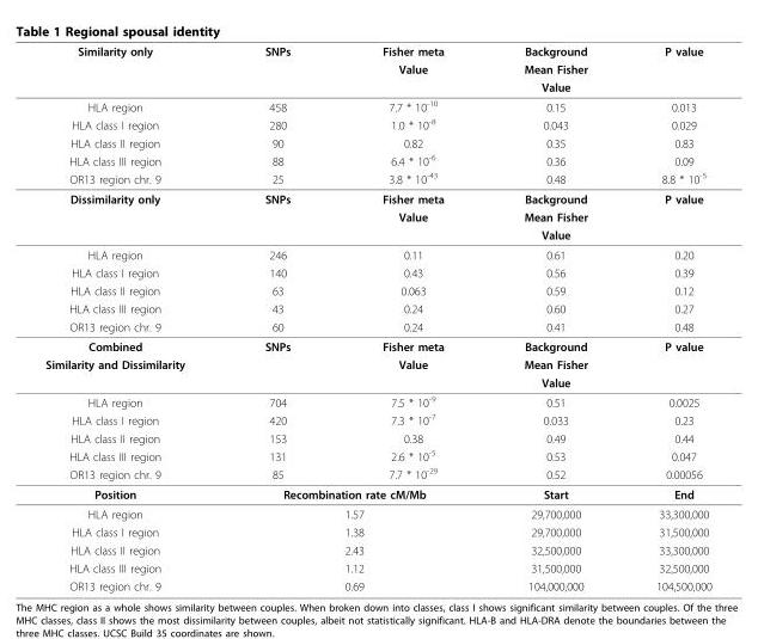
<table><thead><tr><td rowspan="3">Similarity only</td><td rowspan="3">SNPs</td><td rowspan="3">Fisher meta Value</td><td rowspan="3">Background Mean Fisher Value</td><td rowspan="3">P value</td></tr><tr></tr><tr></tr></thead><tbody><tr><td>HLA region</td><td>458</td><td>7.7 * 10<sup>-10</sup></td><td>0.15</td><td>0.013</td></tr><tr><td>HLA class I region</td><td>280</td><td>1.0 * 10<sup>-8</sup></td><td>0.043</td><td>0.029</td></tr><tr><td>HLA class II region</td><td>90</td><td>0.82</td><td>0.35</td><td>0.83</td></tr><tr><td>HLA class III region</td><td>88</td><td>6.4 * 10<sup>-6</sup></td><td>0.36</td><td>0.09</td></tr><tr><td>OR13 region chr. 9</td><td>25</td><td>3.8 * 10<sup>-43</sup></td><td>0.48</td><td>8.8 * 10<sup>-5</sup></td></tr><tr><td rowspan="3">Dissimilarity only</td><td>SNPs</td><td>Fisher meta</td><td>Background</td><td>P value</td></tr><tr><td></td><td>Value</td><td>Mean Fisher</td><td></td></tr><tr><td></td><td></td><td>Value</td><td></td></tr><tr><td>HLA region</td><td>246</td><td>0.11</td><td>0.61</td><td>0.20</td></tr><tr><td>HLA class I region</td><td>140</td><td>0.43</td><td>0.56</td><td>0.39</td></tr><tr><td>HLA class II region</td><td>63</td><td>0.063</td><td>0.59</td><td>0.12</td></tr><tr><td>HLA class III region</td><td>43</td><td>0.24</td><td>0.60</td><td>0.27</td></tr><tr><td>OR13 region chr. 9</td><td>60</td><td>0.24</td><td>0.41</td><td>0.48</td></tr><tr><td>Combined</td><td>SNPs</td><td>Fisher meta</td><td>Background</td><td>P value</td></tr><tr><td rowspan="2">Similarity and Dissimilarity</td><td></td><td>Value</td><td>Mean Fisher</td><td></td></tr><tr><td></td><td></td><td>Value</td><td></td></tr><tr><td>HLA region</td><td>704</td><td>7.5 * 10-9</td><td>0.51</td><td>0.0025</td></tr><tr><td>HLA class I region</td><td>420</td><td>7.3 * 10-7</td><td>0.033</td><td>0.23</td></tr><tr><td>HLA class II region</td><td>153</td><td>0.38</td><td>0.49</td><td>0.44</td></tr><tr><td>HLA class III region</td><td>131</td><td>2.6 * 10-5</td><td>0.53</td><td>0.047</td></tr><tr><td>OR13 region chr. 9</td><td>85</td><td>7.7 * 10-29</td><td>0.52</td><td>0.00056</td></tr><tr><td>Position</td><td colspan="2">Recombination rate cM/Mb</td><td>Start</td><td>End</td></tr><tr><td>HLA region</td><td colspan="2">1.57</td><td>29,700,000</td><td>33,300,000</td></tr><tr><td>HLA class I region</td><td colspan="2">1.38</td><td>29,700,000</td><td>31,500,000</td></tr><tr><td>HLA class II region</td><td colspan="2">2.43</td><td>32,500,000</td><td>33,300,000</td></tr><tr><td>HLA class III region</td><td colspan="2">1.12</td><td>31,500,000</td><td>32,500,000</td></tr><tr><td>OR13 region chr. 9</td><td colspan="2">0.69</td><td>104,000,000</td><td>104,500,000</td></tr></tbody></table>